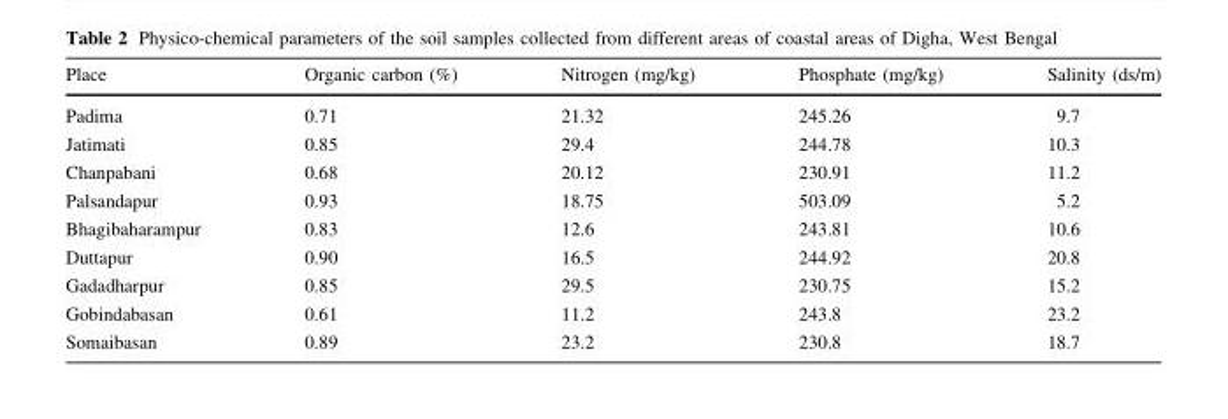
<table><thead><tr><td>Place</td><td>Organic carbon (%)</td><td>Nitrogen (mg/kg)</td><td>Phosphate (mg/kg)</td><td>Salinity (ds/m)</td></tr></thead><tbody><tr><td>Padima</td><td>0.71</td><td>21.32</td><td>245.26</td><td>9.7</td></tr><tr><td>Jatimati</td><td>0.85</td><td>29.4</td><td>244.78</td><td>10.3</td></tr><tr><td>Chanpabani</td><td>0.68</td><td>20.12</td><td>230.91</td><td>11.2</td></tr><tr><td>Palsandapur</td><td>0.93</td><td>18.75</td><td>503.09</td><td>5.2</td></tr><tr><td>Bhagibaharampur</td><td>0.83</td><td>12.6</td><td>243.81</td><td>10.6</td></tr><tr><td>Duttapur</td><td>0.90</td><td>16.5</td><td>244.92</td><td>20.8</td></tr><tr><td>Gadadharpur</td><td>0.85</td><td>29.5</td><td>230.75</td><td>15.2</td></tr><tr><td>Gobindabasan</td><td>0.61</td><td>11.2</td><td>243.8</td><td>23.2</td></tr><tr><td>Somaibasan</td><td>0.89</td><td>23.2</td><td>230.8</td><td>18.7</td></tr></tbody></table>